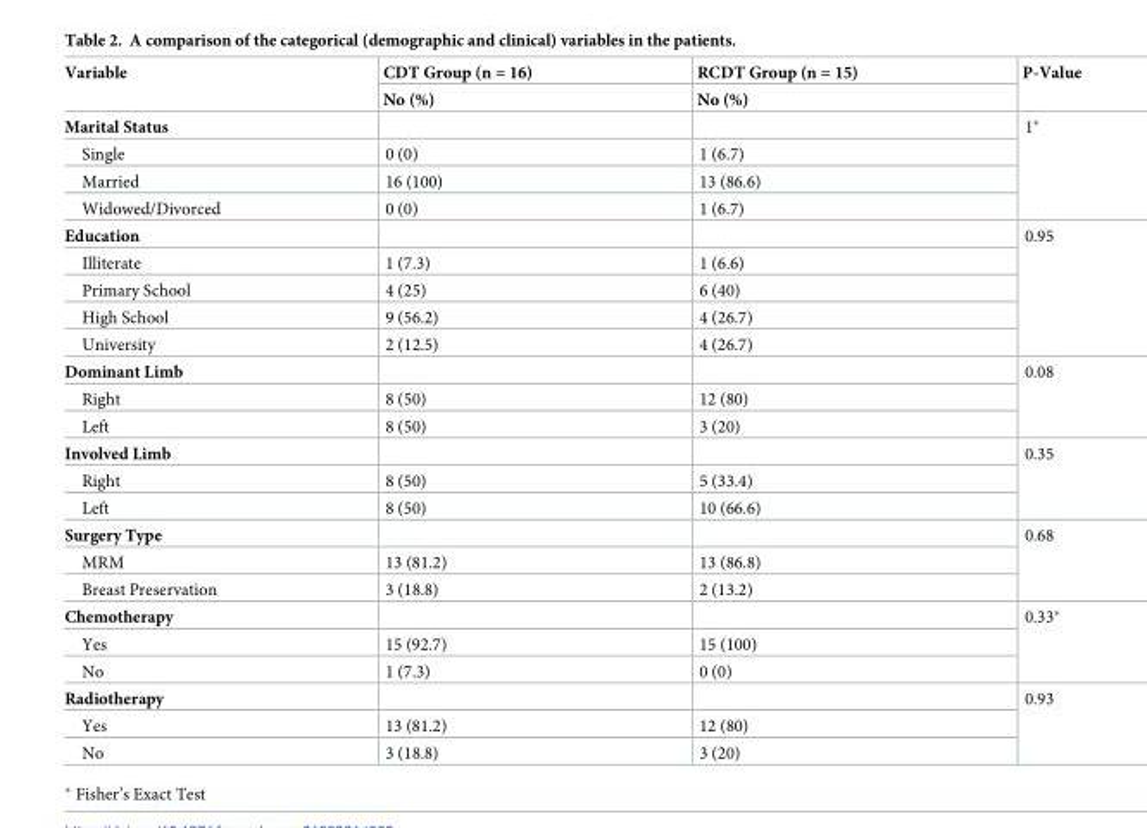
<table><thead><tr><td rowspan="2">Variable</td><td rowspan="2">CDT Group (n = 16) No (%)</td><td rowspan="2">RCDT Group (n = 15) No (%)</td><td rowspan="2">P-Value</td></tr><tr></tr></thead><tbody><tr><td colspan="3">Marital Status</td><td rowspan="4">1*</td></tr><tr><td>Single</td><td>0 (0)</td><td>1 (6.7)</td></tr><tr><td>Married</td><td>16 (100)</td><td>13 (86.6)</td></tr><tr><td>Widowed/Divorced</td><td>0 (0)</td><td>1 (6.7)</td></tr><tr><td colspan="3">Education</td><td rowspan="5">0.95</td></tr><tr><td>Illiterate</td><td>1 (7.3)</td><td>1 (6.6)</td></tr><tr><td>Primary School</td><td>4 (25)</td><td>6 (40)</td></tr><tr><td>High School</td><td>9 (56.2)</td><td>4 (26.7)</td></tr><tr><td>University</td><td>2 (12.5)</td><td>4 (26.7)</td></tr><tr><td colspan="3">Dominant Limb</td><td rowspan="3">0.08</td></tr><tr><td>Right</td><td>8 (50)</td><td>12 (80)</td></tr><tr><td>Left</td><td>8 (50)</td><td>3 (20)</td></tr><tr><td colspan="3">Involved Limb</td><td rowspan="3">0.35</td></tr><tr><td>Right</td><td>8 (50)</td><td>5 (33.4)</td></tr><tr><td>Left</td><td>8 (50)</td><td>10 (66.6)</td></tr><tr><td colspan="3">Surgery Type</td><td rowspan="3">0.68</td></tr><tr><td>MRM</td><td>13 (81.2)</td><td>13 (86.8)</td></tr><tr><td>Breast Preservation</td><td>3 (18.8)</td><td>2 (13.2)</td></tr><tr><td colspan="3">Chemotherapy</td><td rowspan="3">0.33*</td></tr><tr><td>Yes</td><td>15 (92.7)</td><td>15 (100)</td></tr><tr><td>No</td><td>1 (7.3)</td><td>0 (0)</td></tr><tr><td colspan="3">Radiotherapy</td><td rowspan="3">0.93</td></tr><tr><td>Yes</td><td>13 (81.2)</td><td>12 (80)</td></tr><tr><td>No</td><td>3 (18.8)</td><td>3 (20)</td></tr></tbody></table>